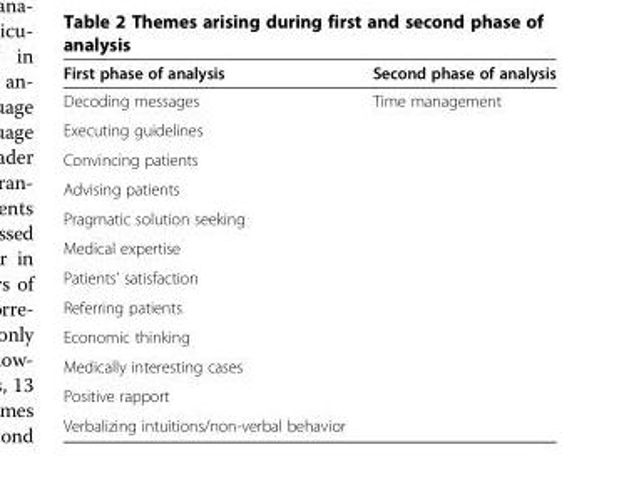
<table><thead><tr><td>First phase of analysis</td><td>Second phase of analysis</td></tr></thead><tbody><tr><td>Decoding messages</td><td rowspan="11">Time management</td></tr><tr><td>Executing guidelines</td></tr><tr><td>Convincing patients</td></tr><tr><td>Advising patients</td></tr><tr><td>Pragmatic solution seeking</td></tr><tr><td>Medical expertise</td></tr><tr><td>Patients’ satisfaction</td></tr><tr><td>Referring patients</td></tr><tr><td>Economic thinking</td></tr><tr><td>Medically interesting cases</td></tr><tr><td>Positive rapport</td></tr><tr><td>Verbalizing intuitions/non-verbal behavior</td><td></td></tr></tbody></table>